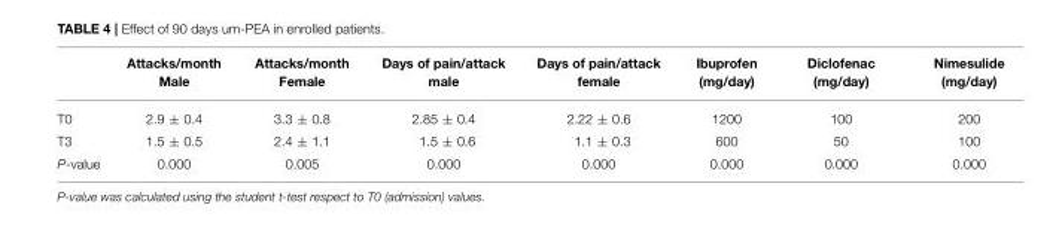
<table><thead><tr><td></td><td>Attacks/month Male</td><td>Attacks/month Female</td><td>Days of pain/attack male</td><td>Days of pain/attack female</td><td>Ibuprofen (mg/day)</td><td>Diclofenac (mg/day)</td><td>Nimesulide (mg/day)</td></tr></thead><tbody><tr><td>T0</td><td>2.9 ± 0.4</td><td>3.3 ± 0.8</td><td>2.85 ± 0.4</td><td>2.22 ± 0.6</td><td>1200</td><td>100</td><td>200</td></tr><tr><td>T3</td><td>1.5 ± 0.5</td><td>2.4 ± 1.1</td><td>1.5 ± 0.6</td><td>1.1 ± 0.3</td><td>600</td><td>50</td><td>100</td></tr><tr><td>P-value</td><td>0.000</td><td>0.005</td><td>0.000</td><td>0.000</td><td>0.000</td><td>0.000</td><td>0.000</td></tr></tbody></table>